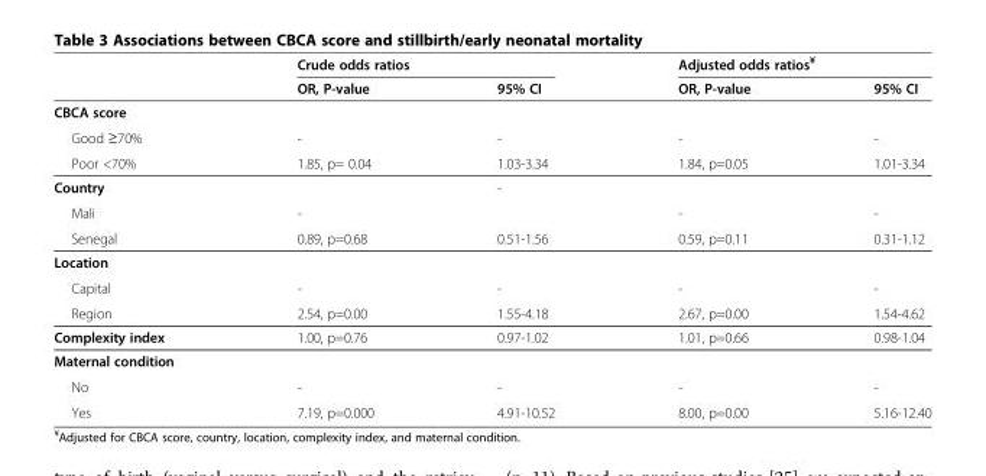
<table><thead><tr><td rowspan="2"></td><td colspan="2">Crude odds ratios</td><td colspan="2">Adjusted odds ratios<sup>¥</sup></td></tr><tr><td>OR, P-value</td><td>95% CI</td><td>OR, P-value</td><td>95% CI</td></tr></thead><tbody><tr><td colspan="5">CBCA score</td></tr><tr><td>Good ≥70%</td><td>-</td><td>-</td><td>-</td><td>-</td></tr><tr><td>Poor &lt;70%</td><td>1.85, p= 0.04</td><td>1.03-3.34</td><td>1.84, p=0.05</td><td>1.01-3.34</td></tr><tr><td>Country</td><td></td><td>-</td><td></td><td></td></tr><tr><td>Mali</td><td>-</td><td></td><td>-</td><td>-</td></tr><tr><td>Senegal</td><td>0.89, p=0.68</td><td>0.51-1.56</td><td>0.59, p=0.11</td><td>0.31-1.12</td></tr><tr><td colspan="5">Location</td></tr><tr><td>Capital</td><td>-</td><td>-</td><td>-</td><td>-</td></tr><tr><td>Region</td><td>2.54, p=0.00</td><td>1.55-4.18</td><td>2.67, p=0.00</td><td>1.54-4.62</td></tr><tr><td>Complexity index</td><td>1.00, p=0.76</td><td>0.97-1.02</td><td>1.01, p=0.66</td><td>0.98-1.04</td></tr><tr><td colspan="5">Maternal condition</td></tr><tr><td>No</td><td>-</td><td>-</td><td>-</td><td>-</td></tr><tr><td>Yes</td><td>7.19, p=0.000</td><td>4.91-10.52</td><td>8.00, p=0.00</td><td>5.16-12.40</td></tr></tbody></table>